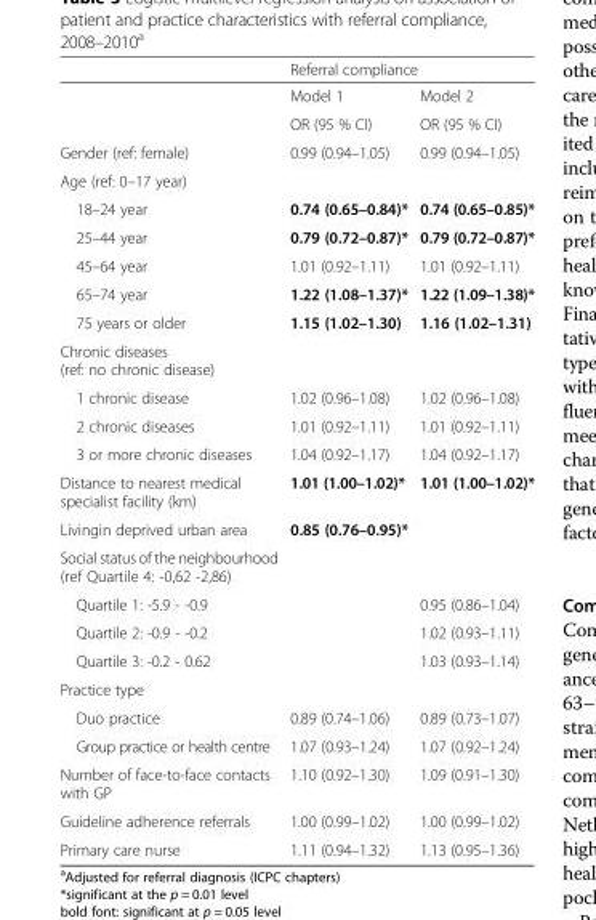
<table><thead><tr><td rowspan="2"></td><td colspan="2">Referral compliance</td></tr><tr><td>Model 1</td><td>Model 2</td></tr></thead><tbody><tr><td></td><td>OR (95 % CI)</td><td>OR (95 % CI)</td></tr><tr><td>Gender (ref: female)</td><td>0.99 (0.94–1.05)</td><td>0.99 (0.94–1.05)</td></tr><tr><td colspan="3">Age (ref: 0–17 year)</td></tr><tr><td>18–24 year</td><td>0.74 (0.65–0.84)*</td><td>0.74 (0.65–0.85)*</td></tr><tr><td>25–44 year</td><td>0.79 (0.72–0.87)*</td><td>0.79 (0.72–0.87)*</td></tr><tr><td>45–64 year</td><td>1.01 (0.92–1.11)</td><td>1.01 (0.92–1.11)</td></tr><tr><td>65–74 year</td><td>1.22 (1.08–1.37)*</td><td>1.22 (1.09–1.38)*</td></tr><tr><td>75 years or older</td><td>1.15 (1.02–1.30)</td><td>1.16 (1.02–1.31)</td></tr><tr><td colspan="3">Chronic diseases (ref: no chronic disease)</td></tr><tr><td>1 chronic disease</td><td>1.02 (0.96–1.08)</td><td>1.02 (0.96–1.08)</td></tr><tr><td>2 chronic diseases</td><td>1.01 (0.92–1.11)</td><td>1.01 (0.92–1.11)</td></tr><tr><td>3 or more chronic diseases</td><td>1.04 (0.92–1.17)</td><td>1.04 (0.92–1.17)</td></tr><tr><td>Distance to nearest medical specialist facility (km)</td><td>1.01 (1.00–1.02)*</td><td>1.01 (1.00–1.02)*</td></tr><tr><td>Livingin deprived urban area</td><td>0.85 (0.76–0.95)*</td><td></td></tr><tr><td colspan="3">Social status of the neighbourhood (ref Quartile 4: -0,62 -2,86)</td></tr><tr><td>Quartile 1: -5.9 - -0.9</td><td></td><td>0.95 (0.86–1.04)</td></tr><tr><td>Quartile 2: -0.9 - -0.2</td><td></td><td>1.02 (0.93–1.11)</td></tr><tr><td>Quartile 3: -0.2 - 0.62</td><td></td><td>1.03 (0.93–1.14)</td></tr><tr><td colspan="3">Practice type</td></tr><tr><td>Duo practice</td><td>0.89 (0.74–1.06)</td><td>0.89 (0.73–1.07)</td></tr><tr><td>Group practice or health centre</td><td>1.07 (0.93–1.24)</td><td>1.07 (0.92–1.24)</td></tr><tr><td>Number of face-to-face contacts with GP</td><td>1.10 (0.92–1.30)</td><td>1.09 (0.91–1.30)</td></tr><tr><td>Guideline adherence referrals</td><td>1.00 (0.99–1.02)</td><td>1.00 (0.99–1.02)</td></tr><tr><td>Primary care nurse</td><td>1.11 (0.94–1.32)</td><td>1.13 (0.95–1.36)</td></tr></tbody></table>